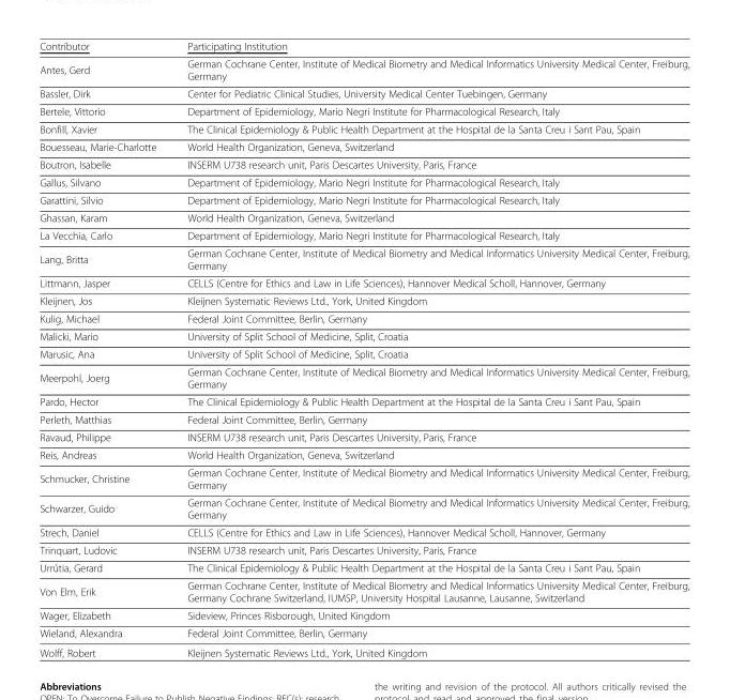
<table><tbody><tr><td>Contributor</td><td>Participating Institution</td></tr><tr><td>Antes, Gerd</td><td>German Cochrane Center, Institute of Medical Biometry and Medical Informatics University Medical Center, Freiburg, Germany</td></tr><tr><td>Bassler, Dirk</td><td>Center for Pediatric Clinical Studies, University Medical Center Tuebingen, Germany</td></tr><tr><td>Bertele, Vittorio</td><td>Department of Epidemiology, Mario Negri Institute for Pharmacological Research, Italy</td></tr><tr><td>Bonfill, Xavier</td><td>The Clinical Epidemiology &amp; Public Health Department at the Hospital de la Santa Creu i Sant Pau, Spain</td></tr><tr><td>Bouesseau, Marie-Charlotte</td><td>World Health Organization, Geneva, Switzerland</td></tr><tr><td>Boutron, Isabelle</td><td>INSERM U738 research unit, Paris Descartes University, Paris, France</td></tr><tr><td>Gallus, Silvano</td><td>Department of Epidemiology, Mario Negri Institute for Pharmacological Research, Italy</td></tr><tr><td>Garattini, Silvio</td><td>Department of Epidemiology, Mario Negri Institute for Pharmacological Research, Italy</td></tr><tr><td>Ghassan, Karam</td><td>World Health Organization, Geneva, Switzerland</td></tr><tr><td>La Vecchia, Carlo</td><td>Department of Epidemiology, Mario Negri Institute for Pharmacological Research, Italy</td></tr><tr><td>Lang, Britta</td><td>German Cochrane Center, Institute of Medical Biometry and Medical Informatics University Medical Center, Freiburg, Germany</td></tr><tr><td>Littmann, Jasper</td><td>CELLS (Centre for Ethics and Law in Life Sciences), Hannover Medical Scholl, Hannover, Germany</td></tr><tr><td>Kleijnen, Jos</td><td>Kleijnen Systematic Reviews Ltd., York, United Kingdom</td></tr><tr><td>Kulig, Michael</td><td>Federal Joint Committee, Berlin, Germany</td></tr><tr><td>Malicki, Mario</td><td>University of Split School of Medicine, Split, Croatia</td></tr><tr><td>Marusic, Ana</td><td>University of Split School of Medicine, Split, Croatia</td></tr><tr><td>Meerpohl, Joerg</td><td>German Cochrane Center, Institute of Medical Biometry and Medical Informatics University Medical Center, Freiburg, Germany</td></tr><tr><td>Pardo, Hector</td><td>The Clinical Epidemiology &amp; Public Health Department at the Hospital de la Santa Creu i Sant Pau, Spain</td></tr><tr><td>Perleth, Matthias</td><td>Federal Joint Committee, Berlin, Germany</td></tr><tr><td>Ravaud, Philippe</td><td>INSERM U738 research unit, Paris Descartes University, Paris, France</td></tr><tr><td>Reis, Andreas</td><td>World Health Organization, Geneva, Switzerland</td></tr><tr><td>Schmucker, Christine</td><td>German Cochrane Center, Institute of Medical Biometry and Medical Informatics University Medical Center, Freiburg, Germany</td></tr><tr><td>Schwarzer, Guido</td><td>German Cochrane Center, Institute of Medical Biometry and Medical Informatics University Medical Center, Freiburg, Germany</td></tr><tr><td>Strech, Daniel</td><td>CELLS (Centre for Ethics and Law in Life Sciences), Hannover Medical Scholl, Hannover, Germany</td></tr><tr><td>Trinquart, Ludovic</td><td>INSERM U738 research unit, Paris Descartes University, Paris, France</td></tr><tr><td>Urrútia, Gerard</td><td>The Clinical Epidemiology &amp; Public Health Department at the Hospital de la Santa Creu i Sant Pau, Spain</td></tr><tr><td>Von Elm, Erik</td><td>German Cochrane Center, Institute of Medical Biometry and Medical Informatics University Medical Center, Freiburg, Germany Cochrane Switzerland, IUMSP, University Hospital Lausanne, Lausanne, Switzerland</td></tr><tr><td>Wager, Elizabeth</td><td>Sideview, Princes Risborough, United Kingdom</td></tr><tr><td>Wieland, Alexandra</td><td>Federal Joint Committee, Berlin, Germany</td></tr><tr><td>Wolff, Robert</td><td>Kleijnen Systematic Reviews Ltd., York, United Kingdom</td></tr></tbody></table>